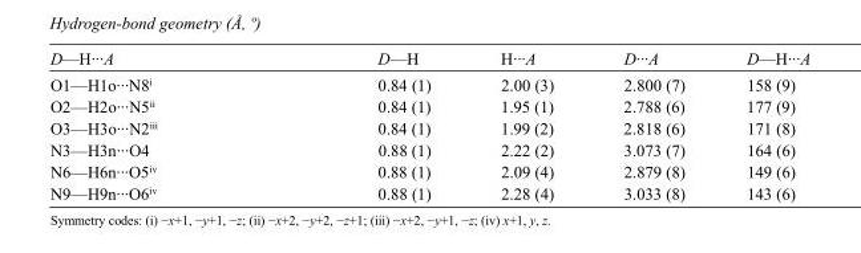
<table><tbody><tr><td>D—H···A</td><td>D—H</td><td>H···A</td><td>D···A</td><td>D—H···A</td></tr><tr><td>O1—H1o···N8<sup>i</sup></td><td>0.84 (1)</td><td>2.00 (3)</td><td>2.800 (7)</td><td>158 (9)</td></tr><tr><td>O2—H2o···N5<sup>ii</sup></td><td>0.84 (1)</td><td>1.95 (1)</td><td>2.788 (6)</td><td>177 (9)</td></tr><tr><td>O3—H3o···N2<sup>iii</sup></td><td>0.84 (1)</td><td>1.99 (2)</td><td>2.818 (6)</td><td>171 (8)</td></tr><tr><td>N3—H3n···O4</td><td>0.88 (1)</td><td>2.22 (2)</td><td>3.073 (7)</td><td>164 (6)</td></tr><tr><td>N6—H6n···O5<sup>iv</sup></td><td>0.88 (1)</td><td>2.09 (4)</td><td>2.879 (8)</td><td>149 (6)</td></tr><tr><td>N9—H9n···O6<sup>iv</sup></td><td>0.88 (1)</td><td>2.28 (4)</td><td>3.033 (8)</td><td>143 (6)</td></tr></tbody></table>